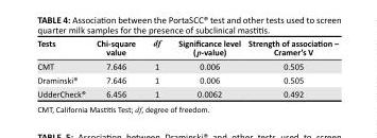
<table><thead><tr><td>Tests</td><td>Chi-square value</td><td>df</td><td>Significance level (p-value)</td><td>Strength of association – Cramer’s V</td></tr></thead><tbody><tr><td>CMT</td><td>7.646</td><td>1</td><td>0.006</td><td>0.505</td></tr><tr><td>Draminski<sup>®</sup></td><td>7.646</td><td>1</td><td>0.006</td><td>0.505</td></tr><tr><td>UdderCheck<sup>®</sup></td><td>6.456</td><td>1</td><td>0.0062</td><td>0.492</td></tr></tbody></table>